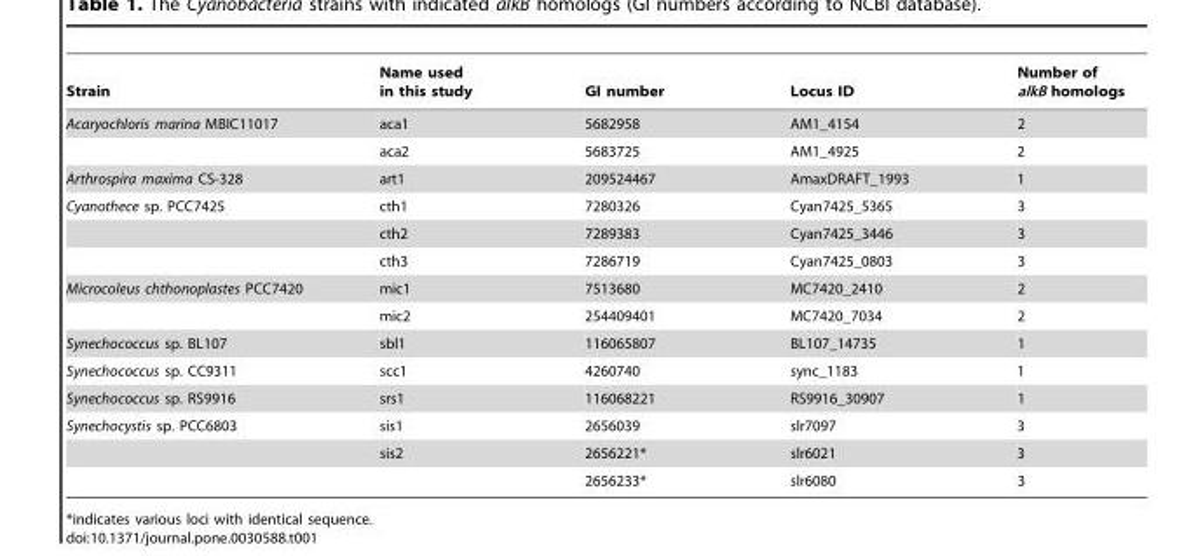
<table><thead><tr><td>Strain</td><td>Name used in this study</td><td>GI number</td><td>Locus ID</td><td>Number of alkB homologs</td></tr></thead><tbody><tr><td rowspan="2">Acaryochloris marina MBIC11017</td><td>aca1</td><td>5682958</td><td>AM1_4154</td><td>2</td></tr><tr><td>aca2</td><td>5683725</td><td>AM1_4925</td><td>2</td></tr><tr><td>Arthrospira maxima CS-328</td><td>art1</td><td>209524467</td><td>AmaxDRAFT_1993</td><td>1</td></tr><tr><td rowspan="3">Cyanothece sp. PCC7425</td><td>cth1</td><td>7280326</td><td>Cyan7425_5365</td><td>3</td></tr><tr><td>cth2</td><td>7289383</td><td>Cyan7425_3446</td><td>3</td></tr><tr><td>cth3</td><td>7286719</td><td>Cyan7425_0803</td><td>3</td></tr><tr><td rowspan="2">Microcoleus chthonoplastes PCC7420</td><td>mic1</td><td>7513680</td><td>MC7420_2410</td><td>2</td></tr><tr><td>mic2</td><td>254409401</td><td>MC7420_7034</td><td>2</td></tr><tr><td>Synechococcus sp. BL107</td><td>sbl1</td><td>116065807</td><td>BL107_14735</td><td>1</td></tr><tr><td>Synechococcus sp. CC9311</td><td>scc1</td><td>4260740</td><td>sync_1183</td><td>1</td></tr><tr><td>Synechococcus sp. RS9916</td><td>srs1</td><td>116068221</td><td>RS9916_30907</td><td>1</td></tr><tr><td rowspan="3">Synechocystis sp. PCC6803</td><td>sis1</td><td>2656039</td><td>slr7097</td><td>3</td></tr><tr><td>sis2</td><td>2656221*</td><td>slr6021</td><td>3</td></tr><tr><td></td><td>2656233*</td><td>slr6080</td><td>3</td></tr></tbody></table>